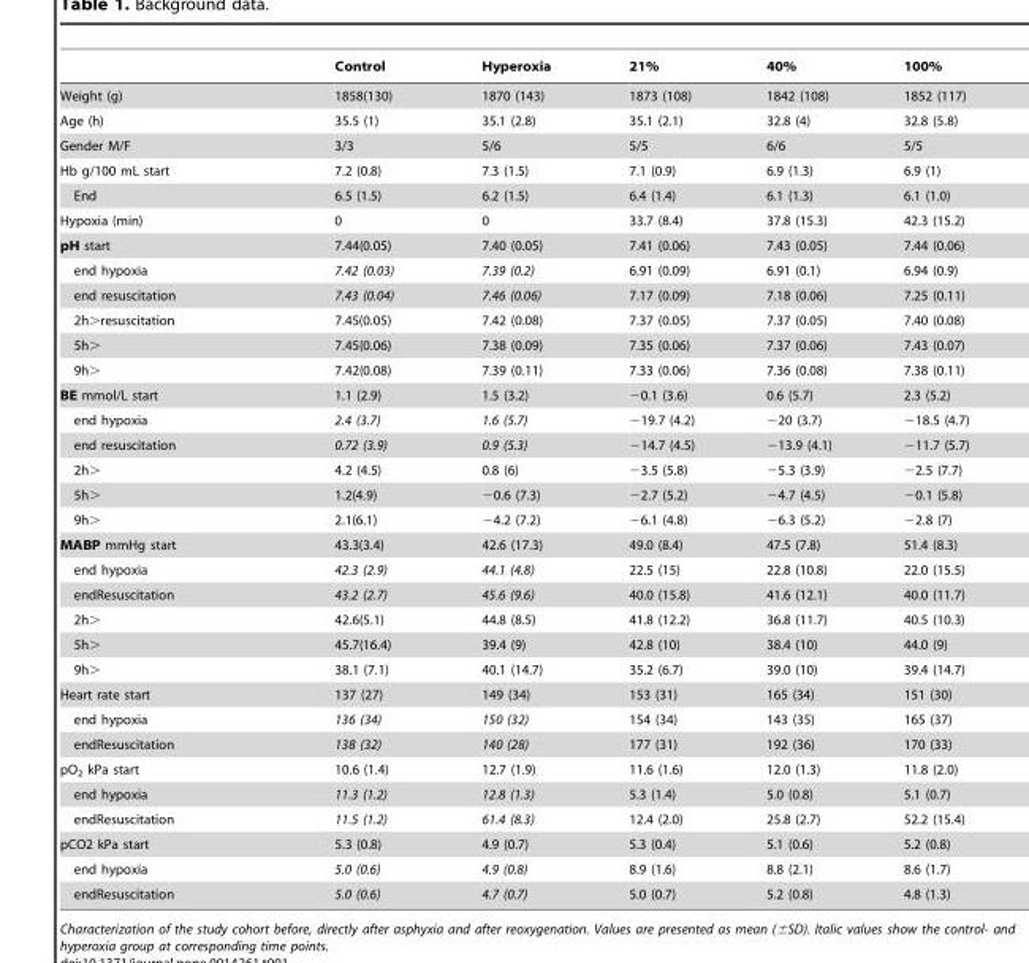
<table><thead><tr><td></td><td>Control</td><td>Hyperoxia</td><td>21%</td><td>40%</td><td>100%</td></tr></thead><tbody><tr><td>Weight (g)</td><td>1858(130)</td><td>1870 (143)</td><td>1873 (108)</td><td>1842 (108)</td><td>1852 (117)</td></tr><tr><td>Age (h)</td><td>35.5 (1)</td><td>35.1 (2.8)</td><td>35.1 (2.1)</td><td>32.8 (4)</td><td>32.8 (5.8)</td></tr><tr><td>Gender M/F</td><td>3/3</td><td>5/6</td><td>5/5</td><td>6/6</td><td>5/5</td></tr><tr><td>Hb g/100 mL start</td><td>7.2 (0.8)</td><td>7.3 (1.5)</td><td>7.1 (0.9)</td><td>6.9 (1.3)</td><td>6.9 (1)</td></tr><tr><td>End</td><td>6.5 (1.5)</td><td>6.2 (1.5)</td><td>6.4 (1.4)</td><td>6.1 (1.3)</td><td>6.1 (1.0)</td></tr><tr><td>Hypoxia (min)</td><td>0</td><td>0</td><td>33.7 (8.4)</td><td>37.8 (15.3)</td><td>42.3 (15.2)</td></tr><tr><td>pH start</td><td>7.44(0.05)</td><td>7.40 (0.05)</td><td>7.41 (0.06)</td><td>7.43 (0.05)</td><td>7.44 (0.06)</td></tr><tr><td>end hypoxia</td><td>7.42 (0.03)</td><td>7.39 (0.2)</td><td>6.91 (0.09)</td><td>6.91 (0.1)</td><td>6.94 (0.9)</td></tr><tr><td>end resuscitation</td><td>7.43 (0.04)</td><td>7.46 (0.06)</td><td>7.17 (0.09)</td><td>7.18 (0.06)</td><td>7.25 (0.11)</td></tr><tr><td>2h&gt;resuscitation</td><td>7.45(0.05)</td><td>7.42 (0.08)</td><td>7.37 (0.05)</td><td>7.37 (0.05)</td><td>7.40 (0.08)</td></tr><tr><td>5h&gt;</td><td>7.45(0.06)</td><td>7.38 (0.09)</td><td>7.35 (0.06)</td><td>7.37 (0.06)</td><td>7.43 (0.07)</td></tr><tr><td>9h&gt;</td><td>7.42(0.08)</td><td>7.39 (0.11)</td><td>7.33 (0.06)</td><td>7.36 (0.08)</td><td>7.38 (0.11)</td></tr><tr><td>BE mmol/L start</td><td>1.1 (2.9)</td><td>1.5 (3.2)</td><td>−0.1 (3.6)</td><td>0.6 (5.7)</td><td>2.3 (5.2)</td></tr><tr><td>end hypoxia</td><td>2.4 (3.7)</td><td>1.6 (5.7)</td><td>−19.7 (4.2)</td><td>−20 (3.7)</td><td>−18.5 (4.7)</td></tr><tr><td>end resuscitation</td><td>0.72 (3.9)</td><td>0.9 (5.3)</td><td>−14.7 (4.5)</td><td>−13.9 (4.1)</td><td>−11.7 (5.7)</td></tr><tr><td>2h&gt;</td><td>4.2 (4.5)</td><td>0.8 (6)</td><td>−3.5 (5.8)</td><td>−5.3 (3.9)</td><td>−2.5 (7.7)</td></tr><tr><td>5h&gt;</td><td>1.2(4.9)</td><td>−0.6 (7.3)</td><td>−2.7 (5.2)</td><td>−4.7 (4.5)</td><td>−0.1 (5.8)</td></tr><tr><td>9h&gt;</td><td>2.1(6.1)</td><td>−4.2 (7.2)</td><td>−6.1 (4.8)</td><td>−6.3 (5.2)</td><td>−2.8 (7)</td></tr><tr><td>MABP mmHg start</td><td>43.3(3.4)</td><td>42.6 (17.3)</td><td>49.0 (8.4)</td><td>47.5 (7.8)</td><td>51.4 (8.3)</td></tr><tr><td>end hypoxia</td><td>42.3 (2.9)</td><td>44.1 (4.8)</td><td>22.5 (15)</td><td>22.8 (10.8)</td><td>22.0 (15.5)</td></tr><tr><td>endResuscitation</td><td>43.2 (2.7)</td><td>45.6 (9.6)</td><td>40.0 (15.8)</td><td>41.6 (12.1)</td><td>40.0 (11.7)</td></tr><tr><td>2h&gt;</td><td>42.6(5.1)</td><td>44.8 (8.5)</td><td>41.8 (12.2)</td><td>36.8 (11.7)</td><td>40.5 (10.3)</td></tr><tr><td>5h&gt;</td><td>45.7(16.4)</td><td>39.4 (9)</td><td>42.8 (10)</td><td>38.4 (10)</td><td>44.0 (9)</td></tr><tr><td>9h&gt;</td><td>38.1 (7.1)</td><td>40.1 (14.7)</td><td>35.2 (6.7)</td><td>39.0 (10)</td><td>39.4 (14.7)</td></tr><tr><td>Heart rate start</td><td>137 (27)</td><td>149 (34)</td><td>153 (31)</td><td>165 (34)</td><td>151 (30)</td></tr><tr><td>end hypoxia</td><td>136 (34)</td><td>150 (32)</td><td>154 (34)</td><td>143 (35)</td><td>165 (37)</td></tr><tr><td>endResuscitation</td><td>138 (32)</td><td>140 (28)</td><td>177 (31)</td><td>192 (36)</td><td>170 (33)</td></tr><tr><td>pO<sub>2</sub> kPa start</td><td>10.6 (1.4)</td><td>12.7 (1.9)</td><td>11.6 (1.6)</td><td>12.0 (1.3)</td><td>11.8 (2.0)</td></tr><tr><td>end hypoxia</td><td>11.3 (1.2)</td><td>12.8 (1.3)</td><td>5.3 (1.4)</td><td>5.0 (0.8)</td><td>5.1 (0.7)</td></tr><tr><td>endResuscitation</td><td>11.5 (1.2)</td><td>61.4 (8.3)</td><td>12.4 (2.0)</td><td>25.8 (2.7)</td><td>52.2 (15.4)</td></tr><tr><td>pCO2 kPa start</td><td>5.3 (0.8)</td><td>4.9 (0.7)</td><td>5.3 (0.4)</td><td>5.1 (0.6)</td><td>5.2 (0.8)</td></tr><tr><td>end hypoxia</td><td>5.0 (0.6)</td><td>4.9 (0.8)</td><td>8.9 (1.6)</td><td>8.8 (2.1)</td><td>8.6 (1.7)</td></tr><tr><td>endResuscitation</td><td>5.0 (0.6)</td><td>4.7 (0.7)</td><td>5.0 (0.7)</td><td>5.2 (0.8)</td><td>4.8 (1.3)</td></tr></tbody></table>